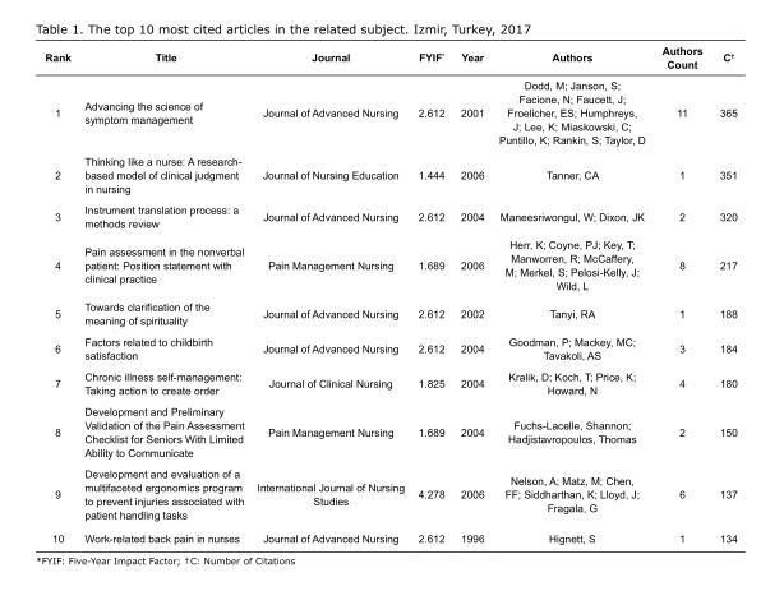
<table><tbody><tr><td>Rank</td><td>Title</td><td>Journal</td><td>FYIF*</td><td>Year</td><td>Authors</td><td>Authors Count</td><td>C<sup>†</sup></td></tr><tr><td>1</td><td>Advancing the science of symptom management</td><td>Journal of Advanced Nursing</td><td>2.612</td><td>2001</td><td>Dodd, M; Janson, S; Facione, N; Faucett, J; Froelicher, ES; Humphreys, J; Lee, K; Miaskowski, C; Puntillo, K; Rankin, S; Taylor, D</td><td>11</td><td>365</td></tr><tr><td>2</td><td>Thinking like a nurse: A research- based model of clinical judgment in nursing</td><td>Journal of Nursing Education</td><td>1.444</td><td>2006</td><td>Tanner, CA</td><td>1</td><td>351</td></tr><tr><td>3</td><td>Instrument translation process: a methods review</td><td>Journal of Advanced Nursing</td><td>2.612</td><td>2004</td><td>Maneesriwongul, W; Dixon, JK</td><td>2</td><td>320</td></tr><tr><td>4</td><td>Pain assessment in the nonverbal patient: Position statement with clinical practice</td><td>Pain Management Nursing</td><td>1.689</td><td>2006</td><td>Herr, K; Coyne, PJ; Key, T; Manworren, R; McCaffery, M; Merkel, S; Pelosi-Kelly, J; Wild, L</td><td>8</td><td>217</td></tr><tr><td>5</td><td>Towards clarification of the meaning of spirituality</td><td>Journal of Advanced Nursing</td><td>2.612</td><td>2002</td><td>Tanyi, RA</td><td>1</td><td>188</td></tr><tr><td>6</td><td>Factors related to childbirth satisfaction</td><td>Journal of Advanced Nursing</td><td>2.612</td><td>2004</td><td>Goodman, P; Mackey, MC; Tavakoli, AS</td><td>3</td><td>184</td></tr><tr><td>7</td><td>Chronic illness self-management: Taking action to create order</td><td>Journal of Clinical Nursing</td><td>1.825</td><td>2004</td><td>Kralik, D; Koch, T; Price, K; Howard, N</td><td>4</td><td>180</td></tr><tr><td>8</td><td>Development and Preliminary Validation of the Pain Assessment Checklist for Seniors With Limited Ability to Communicate</td><td>Pain Management Nursing</td><td>1.689</td><td>2004</td><td>Fuchs-Lacelle, Shannon; Hadjistavropoulos, Thomas</td><td>2</td><td>150</td></tr><tr><td>9</td><td>Development and evaluation of a multifaceted ergonomics program to prevent injuries associated with patient handling tasks</td><td>International Journal of Nursing Studies</td><td>4.278</td><td>2006</td><td>Nelson, A; Matz, M; Chen, FF; Siddharthan, K; Lloyd, J; Fragala, G</td><td>6</td><td>137</td></tr><tr><td>10</td><td>Work-related back pain in nurses</td><td>Journal of Advanced Nursing</td><td>2.612</td><td>1996</td><td>Hignett, S</td><td>1</td><td>134</td></tr></tbody></table>